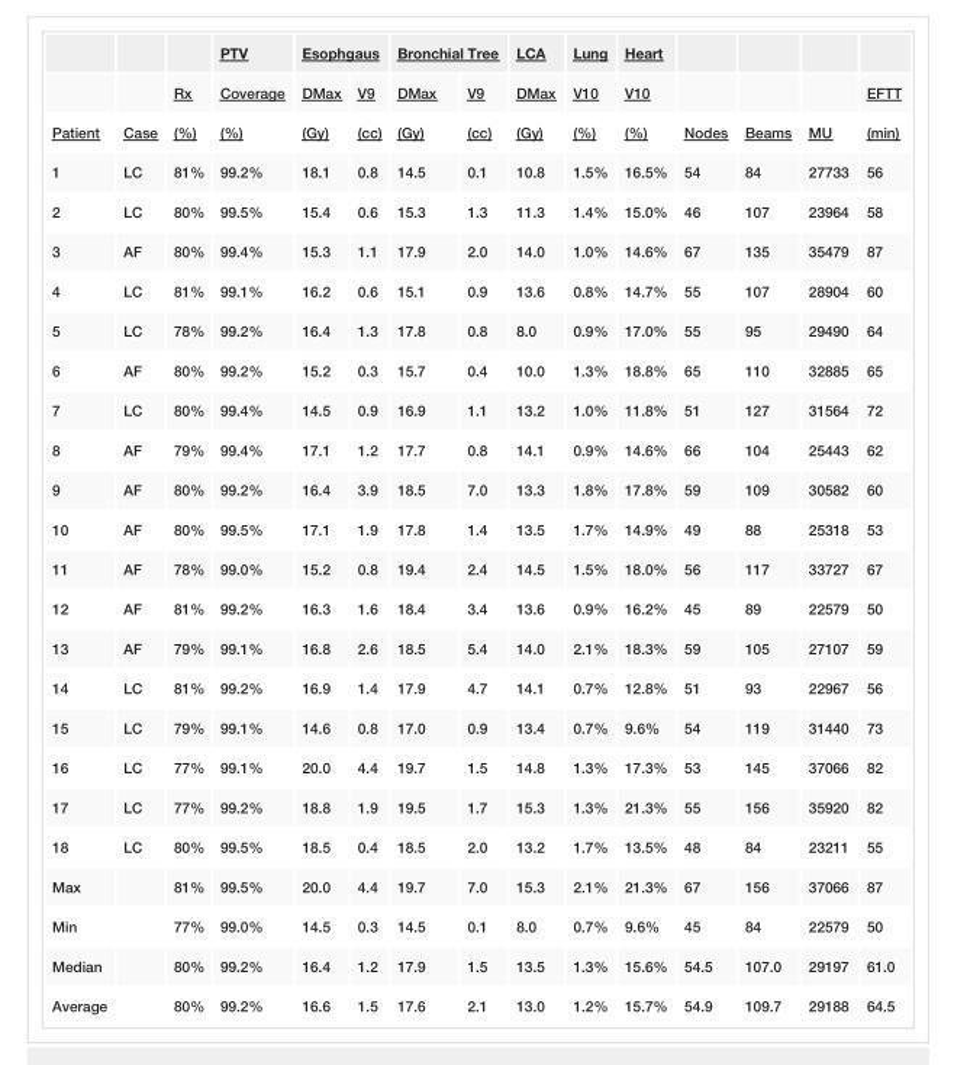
<table><thead><tr><td rowspan="2"></td><td rowspan="2"></td><td rowspan="2">Rx</td><td rowspan="2">PTV Coverage</td><td colspan="2">Esophgaus</td><td colspan="2">Bronchial Tree</td><td rowspan="2">LCA DMax</td><td rowspan="2">Lung V10</td><td rowspan="2">Heart V10</td><td rowspan="2"></td><td rowspan="2"></td><td rowspan="2"></td><td rowspan="2">EFTT</td></tr><tr><td>DMax</td><td>V9</td><td>DMax</td><td>V9</td></tr></thead><tbody><tr><td>Patient</td><td>Case</td><td>(%)</td><td>(%)</td><td>(Gy)</td><td>(cc)</td><td>(Gy)</td><td>(cc)</td><td>(Gy)</td><td>(%)</td><td>(%)</td><td>Nodes</td><td>Beams</td><td>MU</td><td>(min)</td></tr><tr><td>1</td><td>LC</td><td>81%</td><td>99.2%</td><td>18.1</td><td>0.8</td><td>14.5</td><td>0.1</td><td>10.8</td><td>1.5%</td><td>16.5%</td><td>54</td><td>84</td><td>27733</td><td>56</td></tr><tr><td>2</td><td>LC</td><td>80%</td><td>99.5%</td><td>15.4</td><td>0.6</td><td>15.3</td><td>1.3</td><td>11.3</td><td>1.4%</td><td>15.0%</td><td>46</td><td>107</td><td>23964</td><td>58</td></tr><tr><td>3</td><td>AF</td><td>80%</td><td>99.4%</td><td>15.3</td><td>1.1</td><td>17.9</td><td>2.0</td><td>14.0</td><td>1.0%</td><td>14.6%</td><td>67</td><td>135</td><td>35479</td><td>87</td></tr><tr><td>4</td><td>LC</td><td>81%</td><td>99.1%</td><td>16.2</td><td>0.6</td><td>15.1</td><td>0.9</td><td>13.6</td><td>0.8%</td><td>14.7%</td><td>55</td><td>107</td><td>28904</td><td>60</td></tr><tr><td>5</td><td>LC</td><td>78%</td><td>99.2%</td><td>16.4</td><td>1.3</td><td>17.8</td><td>0.8</td><td>8.0</td><td>0.9%</td><td>17.0%</td><td>55</td><td>95</td><td>29490</td><td>64</td></tr><tr><td>6</td><td>AF</td><td>80%</td><td>99.2%</td><td>15.2</td><td>0.3</td><td>15.7</td><td>0.4</td><td>10.0</td><td>1.3%</td><td>18.8%</td><td>65</td><td>110</td><td>32885</td><td>65</td></tr><tr><td>7</td><td>LC</td><td>80%</td><td>99.4%</td><td>14.5</td><td>0.9</td><td>16.9</td><td>1.1</td><td>13.2</td><td>1.0%</td><td>11.8%</td><td>51</td><td>127</td><td>31564</td><td>72</td></tr><tr><td>8</td><td>AF</td><td>79%</td><td>99.4%</td><td>17.1</td><td>1.2</td><td>17.7</td><td>0.8</td><td>14.1</td><td>0.9%</td><td>14.6%</td><td>66</td><td>104</td><td>25443</td><td>62</td></tr><tr><td>9</td><td>AF</td><td>80%</td><td>99.2%</td><td>16.4</td><td>3.9</td><td>18.5</td><td>7.0</td><td>13.3</td><td>1.8%</td><td>17.8%</td><td>59</td><td>109</td><td>30582</td><td>60</td></tr><tr><td>10</td><td>AF</td><td>80%</td><td>99.5%</td><td>17.1</td><td>1.9</td><td>17.8</td><td>1.4</td><td>13.5</td><td>1.7%</td><td>14.9%</td><td>49</td><td>88</td><td>25318</td><td>53</td></tr><tr><td>11</td><td>AF</td><td>78%</td><td>99.0%</td><td>15.2</td><td>0.8</td><td>19.4</td><td>2.4</td><td>14.5</td><td>1.5%</td><td>18.0%</td><td>56</td><td>117</td><td>33727</td><td>67</td></tr><tr><td>12</td><td>AF</td><td>81%</td><td>99.2%</td><td>16.3</td><td>1.6</td><td>18.4</td><td>3.4</td><td>13.6</td><td>0.9%</td><td>16.2%</td><td>45</td><td>89</td><td>22579</td><td>50</td></tr><tr><td>13</td><td>AF</td><td>79%</td><td>99.1%</td><td>16.8</td><td>2.6</td><td>18.5</td><td>5.4</td><td>14.0</td><td>2.1%</td><td>18.3%</td><td>59</td><td>105</td><td>27107</td><td>59</td></tr><tr><td>14</td><td>LC</td><td>81%</td><td>99.2%</td><td>16.9</td><td>1.4</td><td>17.9</td><td>4.7</td><td>14.1</td><td>0.7%</td><td>12.8%</td><td>51</td><td>93</td><td>22967</td><td>56</td></tr><tr><td>15</td><td>LC</td><td>79%</td><td>99.1%</td><td>14.6</td><td>0.8</td><td>17.0</td><td>0.9</td><td>13.4</td><td>0.7%</td><td>9.6%</td><td>54</td><td>119</td><td>31440</td><td>73</td></tr><tr><td>16</td><td>LC</td><td>77%</td><td>99.1%</td><td>20.0</td><td>4.4</td><td>19.7</td><td>1.5</td><td>14.8</td><td>1.3%</td><td>17.3%</td><td>53</td><td>145</td><td>37066</td><td>82</td></tr><tr><td>17</td><td>LC</td><td>77%</td><td>99.2%</td><td>18.8</td><td>1.9</td><td>19.5</td><td>1.7</td><td>15.3</td><td>1.3%</td><td>21.3%</td><td>55</td><td>156</td><td>35920</td><td>82</td></tr><tr><td>18</td><td>LC</td><td>80%</td><td>99.5%</td><td>18.5</td><td>0.4</td><td>18.5</td><td>2.0</td><td>13.2</td><td>1.7%</td><td>13.5%</td><td>48</td><td>84</td><td>23211</td><td>55</td></tr><tr><td>Max</td><td></td><td>81%</td><td>99.5%</td><td>20.0</td><td>4.4</td><td>19.7</td><td>7.0</td><td>15.3</td><td>2.1%</td><td>21.3%</td><td>67</td><td>156</td><td>37066</td><td>87</td></tr><tr><td>Min</td><td></td><td>77%</td><td>99.0%</td><td>14.5</td><td>0.3</td><td>14.5</td><td>0.1</td><td>8.0</td><td>0.7%</td><td>9.6%</td><td>45</td><td>84</td><td>22579</td><td>50</td></tr><tr><td>Median</td><td></td><td>80%</td><td>99.2%</td><td>16.4</td><td>1.2</td><td>17.9</td><td>1.5</td><td>13.5</td><td>1.3%</td><td>15.6%</td><td>54.5</td><td>107.0</td><td>29197</td><td>61.0</td></tr><tr><td>Average</td><td></td><td>80%</td><td>99.2%</td><td>16.6</td><td>1.5</td><td>17.6</td><td>2.1</td><td>13.0</td><td>1.2%</td><td>15.7%</td><td>54.9</td><td>109.7</td><td>29188</td><td>64.5</td></tr></tbody></table>